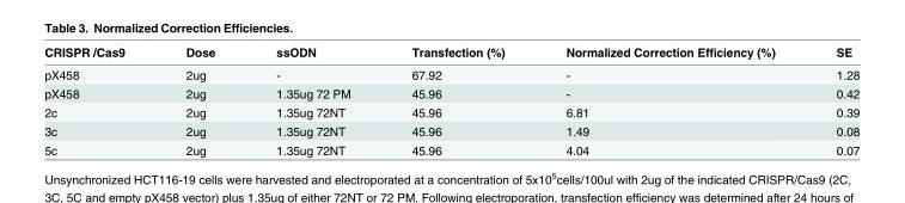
<table><thead><tr><td>CRISPR /Cas9</td><td>Dose</td><td>ssODN</td><td>Transfection (%)</td><td>Normalized Correction Efficiency (%)</td><td>SE</td></tr></thead><tbody><tr><td>pX458</td><td>2ug</td><td>-</td><td>67.92</td><td>-</td><td>1.28</td></tr><tr><td>pX458</td><td>2ug</td><td>1.35ug 72 PM</td><td>45.96</td><td>-</td><td>0.42</td></tr><tr><td>2c</td><td>2ug</td><td>1.35ug 72NT</td><td>45.96</td><td>6.81</td><td>0.39</td></tr><tr><td>3c</td><td>2ug</td><td>1.35ug 72NT</td><td>45.96</td><td>1.49</td><td>0.08</td></tr><tr><td>5c</td><td>2ug</td><td>1.35ug 72NT</td><td>45.96</td><td>4.04</td><td>0.07</td></tr></tbody></table>